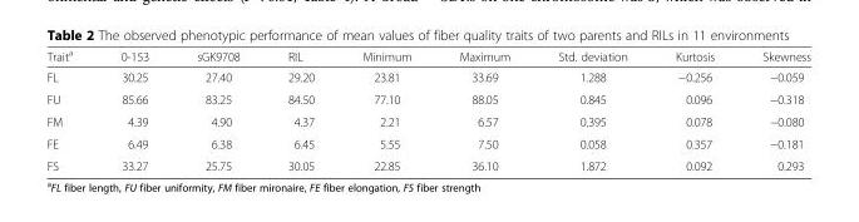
<table><thead><tr><td>Trait<sup>a</sup></td><td>0-153</td><td>sGK9708</td><td>RIL</td><td>Minimum</td><td>Maximum</td><td>Std. deviation</td><td>Kurtosis</td><td>Skewness</td></tr></thead><tbody><tr><td>FL</td><td>30.25</td><td>27.40</td><td>29.20</td><td>23.81</td><td>33.69</td><td>1.288</td><td>−0.256</td><td>−0.059</td></tr><tr><td>FU</td><td>85.66</td><td>83.25</td><td>84.50</td><td>77.10</td><td>88.05</td><td>0.845</td><td>0.096</td><td>−0.318</td></tr><tr><td>FM</td><td>4.39</td><td>4.90</td><td>4.37</td><td>2.21</td><td>6.57</td><td>0.395</td><td>0.078</td><td>−0.080</td></tr><tr><td>FE</td><td>6.49</td><td>6.38</td><td>6.45</td><td>5.55</td><td>7.50</td><td>0.058</td><td>0.357</td><td>−0.181</td></tr><tr><td>FS</td><td>33.27</td><td>25.75</td><td>30.05</td><td>22.85</td><td>36.10</td><td>1.872</td><td>0.092</td><td>0.293</td></tr></tbody></table>